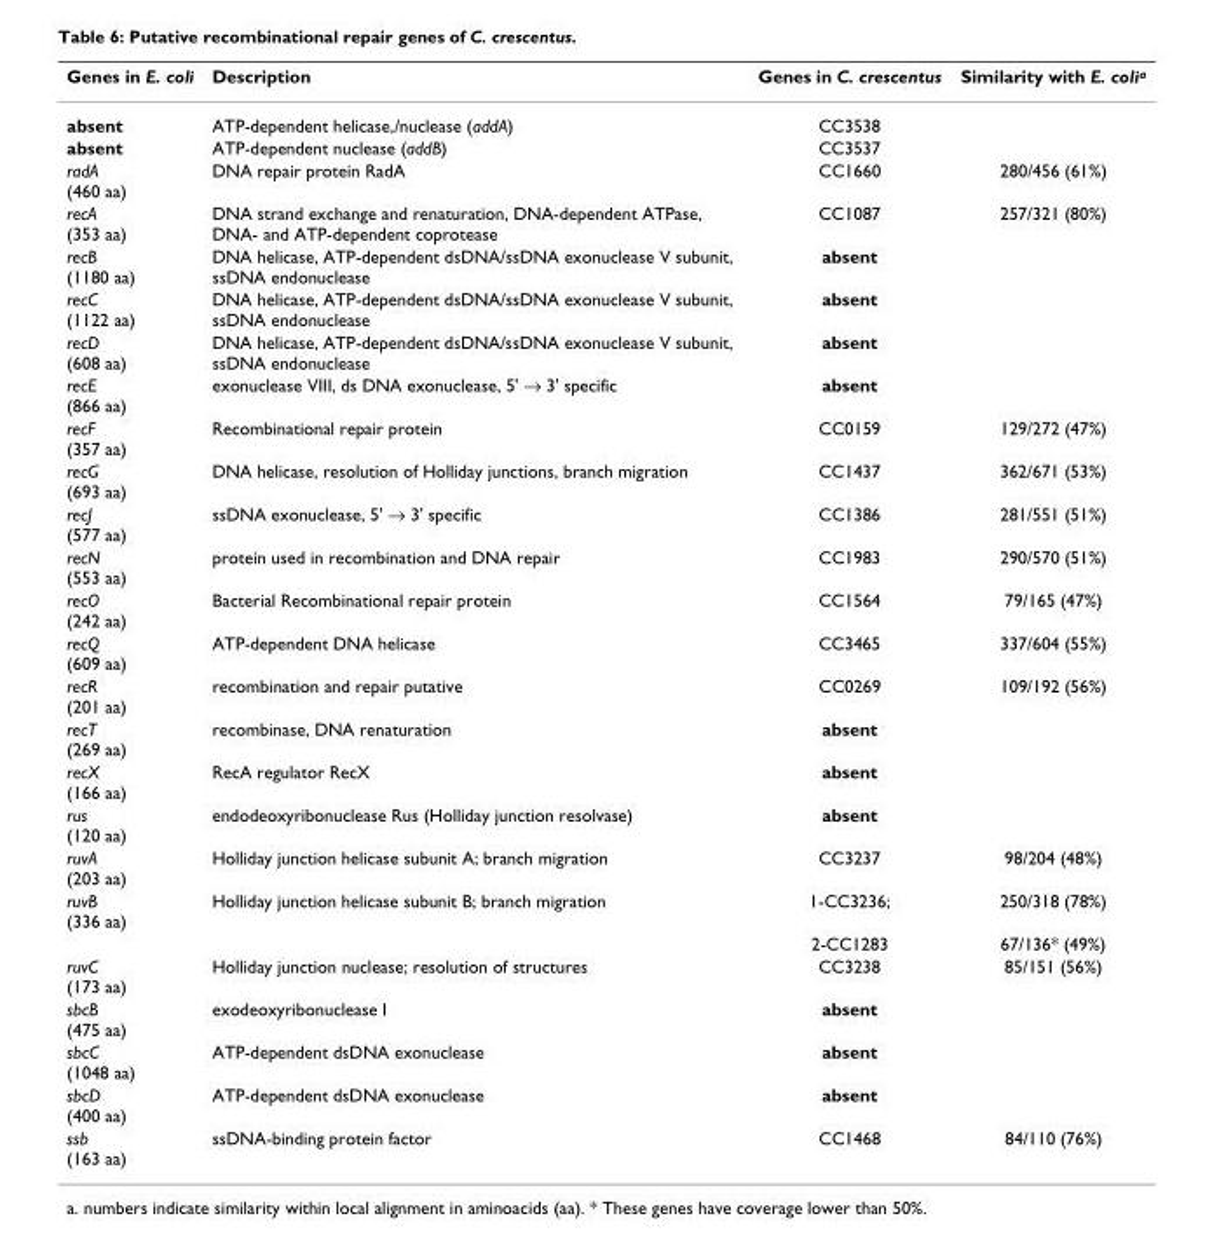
<table><thead><tr><td>Genes in E. coli</td><td>Description</td><td>Genes in C. crescentus</td><td>Similarity with E. colia</td></tr></thead><tbody><tr><td>absent</td><td>ATP-dependent helicase,/nuclease (addA)</td><td>CC3538</td><td></td></tr><tr><td>absent</td><td>ATP-dependent nuclease (addB)</td><td>CC3537</td><td></td></tr><tr><td>radA (460 aa)</td><td>DNA repair protein RadA</td><td>CC1660</td><td>280/456 (61%)</td></tr><tr><td>recA (353 aa)</td><td>DNA strand exchange and renaturation, DNA-dependent ATPase, DNA- and ATP-dependent coprotease</td><td>CC1087</td><td>257/321 (80%)</td></tr><tr><td>recB (1180 aa)</td><td>DNA helicase, ATP-dependent dsDNA/ssDNA exonuclease V subunit, ssDNA endonuclease</td><td>absent</td><td></td></tr><tr><td>recC (1122 aa)</td><td>DNA helicase, ATP-dependent dsDNA/ssDNA exonuclease V subunit, ssDNA endonuclease</td><td>absent</td><td></td></tr><tr><td>recD (608 aa)</td><td>DNA helicase, ATP-dependent dsDNA/ssDNA exonuclease V subunit, ssDNA endonuclease</td><td>absent</td><td></td></tr><tr><td>recE (866 aa)</td><td>exonuclease VIII, ds DNA exonuclease, 5&#x27; → 3&#x27; specific</td><td>absent</td><td></td></tr><tr><td>recF (357 aa)</td><td>Recombinational repair protein</td><td>CC0159</td><td>129/272 (47%)</td></tr><tr><td>recG (693 aa)</td><td>DNA helicase, resolution of Holliday junctions, branch migration</td><td>CC1437</td><td>362/671 (53%)</td></tr><tr><td>recJ (577 aa)</td><td>ssDNA exonuclease, 5&#x27; → 3&#x27; specific</td><td>CC1386</td><td>281/551 (51%)</td></tr><tr><td>recN (553 aa)</td><td>protein used in recombination and DNA repair</td><td>CC1983</td><td>290/570 (51%)</td></tr><tr><td>recO (242 aa)</td><td>Bacterial Recombinational repair protein</td><td>CC1564</td><td>79/165 (47%)</td></tr><tr><td>recQ (609 aa)</td><td>ATP-dependent DNA helicase</td><td>CC3465</td><td>337/604 (55%)</td></tr><tr><td>recR (201 aa)</td><td>recombination and repair putative</td><td>CC0269</td><td>109/192 (56%)</td></tr><tr><td>recT (269 aa)</td><td>recombinase, DNA renaturation</td><td>absent</td><td></td></tr><tr><td>recX (166 aa)</td><td>RecA regulator RecX</td><td>absent</td><td></td></tr><tr><td>rus (120 aa)</td><td>endodeoxyribonuclease Rus (Holliday junction resolvase)</td><td>absent</td><td></td></tr><tr><td>ruvA (203 aa)</td><td>Holliday junction helicase subunit A; branch migration</td><td>CC3237</td><td>98/204 (48%)</td></tr><tr><td rowspan="2">ruvB (336 aa)</td><td>Holliday junction helicase subunit B; branch migration</td><td>1-CC3236;</td><td>250/318 (78%)</td></tr><tr><td></td><td>2-CC1283</td><td>67/136* (49%)</td></tr><tr><td>ruvC (173 aa)</td><td>Holliday junction nuclease; resolution of structures</td><td>CC3238</td><td>85/151 (56%)</td></tr><tr><td>sbcB (475 aa)</td><td>exodeoxyribonuclease I</td><td>absent</td><td></td></tr><tr><td>sbcC (1048 aa)</td><td>ATP-dependent dsDNA exonuclease</td><td>absent</td><td></td></tr><tr><td>sbcD (400 aa)</td><td>ATP-dependent dsDNA exonuclease</td><td>absent</td><td></td></tr><tr><td>ssb (163 aa)</td><td>ssDNA-binding protein factor</td><td>CC1468</td><td>84/110 (76%)</td></tr></tbody></table>